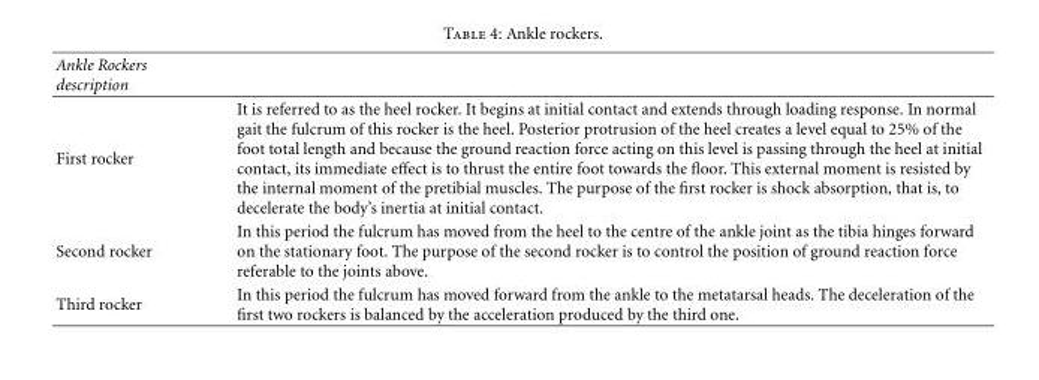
<table><thead><tr><td>Ankle Rockers description</td><td></td></tr></thead><tbody><tr><td>First rocker</td><td>It is referred to as the heel rocker. It begins at initial contact and extends through loading response. In normal gait the fulcrum of this rocker is the heel. Posterior protrusion of the heel creates a level equal to 25% of the foot total length and because the ground reaction force acting on this level is passing through the heel at initial contact, its immediate effect is to thrust the entire foot towards the floor. This external moment is resisted by the internal moment of the pretibial muscles. The purpose of the first rocker is shock absorption, that is, to decelerate the body’s inertia at initial contact.</td></tr><tr><td>Second rocker</td><td>In this period the fulcrum has moved from the heel to the centre of the ankle joint as the tibia hinges forward on the stationary foot. The purpose of the second rocker is to control the position of ground reaction force referable to the joints above.</td></tr><tr><td>Third rocker</td><td>In this period the fulcrum has moved forward from the ankle to the metatarsal heads. The deceleration of the first two rockers is balanced by the acceleration produced by the third one.</td></tr></tbody></table>